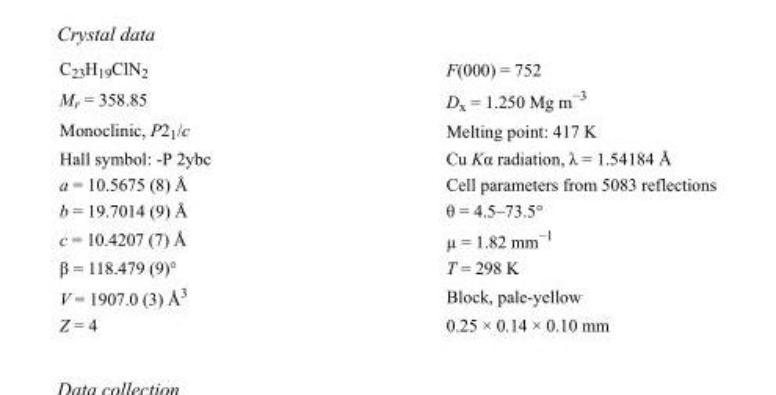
<table><tbody><tr><td>C<sub>23</sub>H<sub>19</sub>ClN<sub>2</sub></td><td>F(000) = 752</td></tr><tr><td>M<sub>r</sub> = 358.85</td><td>D<sub>x</sub> = 1.250 Mg m<sup>−3</sup></td></tr><tr><td>Monoclinic, P2<sub>1</sub>/c</td><td>Melting point: 417 K</td></tr><tr><td>Hall symbol: -P 2ybc</td><td>Cu Kα radiation, λ = 1.54184 Å</td></tr><tr><td>a = 10.5675 (8) Å</td><td>Cell parameters from 5083 reflections</td></tr><tr><td>b = 19.7014 (9) Å</td><td>θ = 4.5–73.5°</td></tr><tr><td>c = 10.4207 (7) Å</td><td>µ = 1.82 mm<sup>−1</sup></td></tr><tr><td>β = 118.479 (9)°</td><td>T = 298 K</td></tr><tr><td>V = 1907.0 (3) Å<sup>3</sup></td><td>Block, pale-yellow</td></tr><tr><td>Z = 4</td><td>0.25 × 0.14 × 0.10 mm</td></tr></tbody></table>